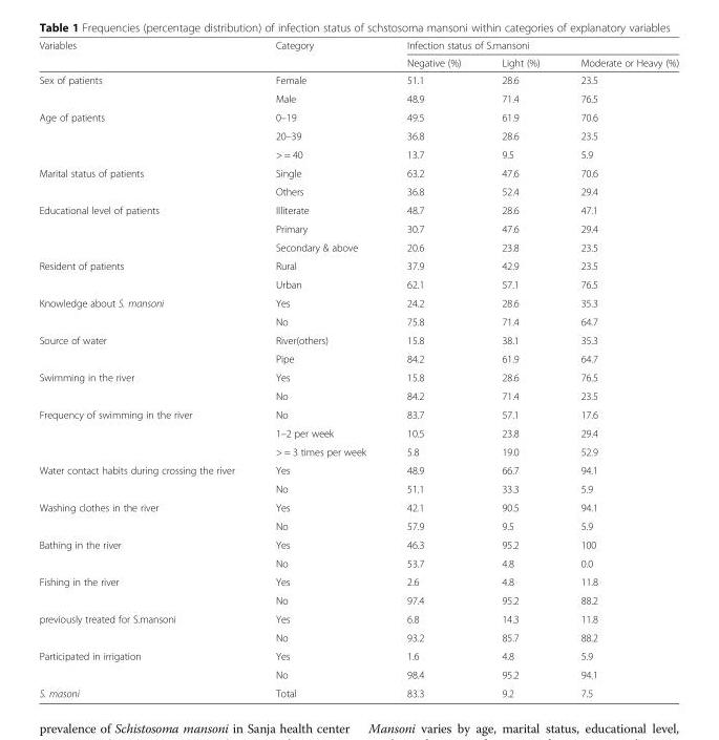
<table><thead><tr><td rowspan="2">Variables</td><td rowspan="2">Category</td><td colspan="3">Infection status of S.mansoni</td></tr><tr><td>Negative (%)</td><td>Light (%)</td><td>Moderate or Heavy (%)</td></tr></thead><tbody><tr><td rowspan="2">Sex of patients</td><td>Female</td><td>51.1</td><td>28.6</td><td>23.5</td></tr><tr><td>Male</td><td>48.9</td><td>71.4</td><td>76.5</td></tr><tr><td rowspan="3">Age of patients</td><td>0–19</td><td>49.5</td><td>61.9</td><td>70.6</td></tr><tr><td>20–39</td><td>36.8</td><td>28.6</td><td>23.5</td></tr><tr><td>&gt; = 40</td><td>13.7</td><td>9.5</td><td>5.9</td></tr><tr><td rowspan="2">Marital status of patients</td><td>Single</td><td>63.2</td><td>47.6</td><td>70.6</td></tr><tr><td>Others</td><td>36.8</td><td>52.4</td><td>29.4</td></tr><tr><td rowspan="3">Educational level of patients</td><td>Illiterate</td><td>48.7</td><td>28.6</td><td>47.1</td></tr><tr><td>Primary</td><td>30.7</td><td>47.6</td><td>29.4</td></tr><tr><td>Secondary &amp; above</td><td>20.6</td><td>23.8</td><td>23.5</td></tr><tr><td rowspan="2">Resident of patients</td><td>Rural</td><td>37.9</td><td>42.9</td><td>23.5</td></tr><tr><td>Urban</td><td>62.1</td><td>57.1</td><td>76.5</td></tr><tr><td rowspan="2">Knowledge about S. mansoni</td><td>Yes</td><td>24.2</td><td>28.6</td><td>35.3</td></tr><tr><td>No</td><td>75.8</td><td>71.4</td><td>64.7</td></tr><tr><td rowspan="2">Source of water</td><td>River(others)</td><td>15.8</td><td>38.1</td><td>35.3</td></tr><tr><td>Pipe</td><td>84.2</td><td>61.9</td><td>64.7</td></tr><tr><td rowspan="2">Swimming in the river</td><td>Yes</td><td>15.8</td><td>28.6</td><td>76.5</td></tr><tr><td>No</td><td>84.2</td><td>71.4</td><td>23.5</td></tr><tr><td rowspan="3">Frequency of swimming in the river</td><td>No</td><td>83.7</td><td>57.1</td><td>17.6</td></tr><tr><td>1–2 per week</td><td>10.5</td><td>23.8</td><td>29.4</td></tr><tr><td>&gt; = 3 times per week</td><td>5.8</td><td>19.0</td><td>52.9</td></tr><tr><td rowspan="2">Water contact habits during crossing the river</td><td>Yes</td><td>48.9</td><td>66.7</td><td>94.1</td></tr><tr><td>No</td><td>51.1</td><td>33.3</td><td>5.9</td></tr><tr><td rowspan="2">Washing clothes in the river</td><td>Yes</td><td>42.1</td><td>90.5</td><td>94.1</td></tr><tr><td>No</td><td>57.9</td><td>9.5</td><td>5.9</td></tr><tr><td rowspan="2">Bathing in the river</td><td>Yes</td><td>46.3</td><td>95.2</td><td>100</td></tr><tr><td>No</td><td>53.7</td><td>4.8</td><td>0.0</td></tr><tr><td rowspan="2">Fishing in the river</td><td>Yes</td><td>2.6</td><td>4.8</td><td>11.8</td></tr><tr><td>No</td><td>97.4</td><td>95.2</td><td>88.2</td></tr><tr><td rowspan="2">previously treated for S.mansoni</td><td>Yes</td><td>6.8</td><td>14.3</td><td>11.8</td></tr><tr><td>No</td><td>93.2</td><td>85.7</td><td>88.2</td></tr><tr><td rowspan="2">Participated in irrigation</td><td>Yes</td><td>1.6</td><td>4.8</td><td>5.9</td></tr><tr><td>No</td><td>98.4</td><td>95.2</td><td>94.1</td></tr><tr><td>S. masoni</td><td>Total</td><td>83.3</td><td>9.2</td><td>7.5</td></tr></tbody></table>